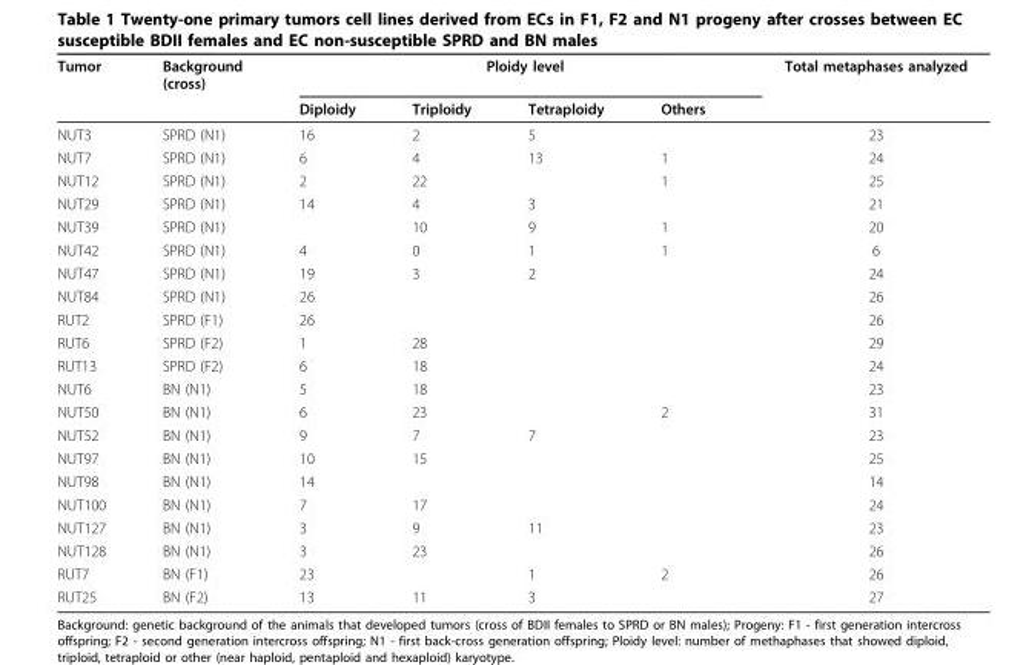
<table><thead><tr><td rowspan="2">Tumor</td><td rowspan="2">Background (cross)</td><td colspan="4">Ploidy level</td><td rowspan="2">Total metaphases analyzed</td></tr><tr><td>Diploidy</td><td>Triploidy</td><td>Tetraploidy</td><td>Others</td></tr></thead><tbody><tr><td>NUT3</td><td>SPRD (N1)</td><td>16</td><td>2</td><td>5</td><td></td><td>23</td></tr><tr><td>NUT7</td><td>SPRD (N1)</td><td>6</td><td>4</td><td>13</td><td>1</td><td>24</td></tr><tr><td>NUT12</td><td>SPRD (N1)</td><td>2</td><td>22</td><td></td><td>1</td><td>25</td></tr><tr><td>NUT29</td><td>SPRD (N1)</td><td>14</td><td>4</td><td>3</td><td></td><td>21</td></tr><tr><td>NUT39</td><td>SPRD (N1)</td><td></td><td>10</td><td>9</td><td>1</td><td>20</td></tr><tr><td>NUT42</td><td>SPRD (N1)</td><td>4</td><td>0</td><td>1</td><td>1</td><td>6</td></tr><tr><td>NUT47</td><td>SPRD (N1)</td><td>19</td><td>3</td><td>2</td><td></td><td>24</td></tr><tr><td>NUT84</td><td>SPRD (N1)</td><td>26</td><td></td><td></td><td></td><td>26</td></tr><tr><td>RUT2</td><td>SPRD (F1)</td><td>26</td><td></td><td></td><td></td><td>26</td></tr><tr><td>RUT6</td><td>SPRD (F2)</td><td>1</td><td>28</td><td></td><td></td><td>29</td></tr><tr><td>RUT13</td><td>SPRD (F2)</td><td>6</td><td>18</td><td></td><td></td><td>24</td></tr><tr><td>NUT6</td><td>BN (N1)</td><td>5</td><td>18</td><td></td><td></td><td>23</td></tr><tr><td>NUT50</td><td>BN (N1)</td><td>6</td><td>23</td><td></td><td>2</td><td>31</td></tr><tr><td>NUT52</td><td>BN (N1)</td><td>9</td><td>7</td><td>7</td><td></td><td>23</td></tr><tr><td>NUT97</td><td>BN (N1)</td><td>10</td><td>15</td><td></td><td></td><td>25</td></tr><tr><td>NUT98</td><td>BN (N1)</td><td>14</td><td></td><td></td><td></td><td>14</td></tr><tr><td>NUT100</td><td>BN (N1)</td><td>7</td><td>17</td><td></td><td></td><td>24</td></tr><tr><td>NUT127</td><td>BN (N1)</td><td>3</td><td>9</td><td>11</td><td></td><td>23</td></tr><tr><td>NUT128</td><td>BN (N1)</td><td>3</td><td>23</td><td></td><td></td><td>26</td></tr><tr><td>RUT7</td><td>BN (F1)</td><td>23</td><td></td><td>1</td><td>2</td><td>26</td></tr><tr><td>RUT25</td><td>BN (F2)</td><td>13</td><td>11</td><td>3</td><td></td><td>27</td></tr></tbody></table>